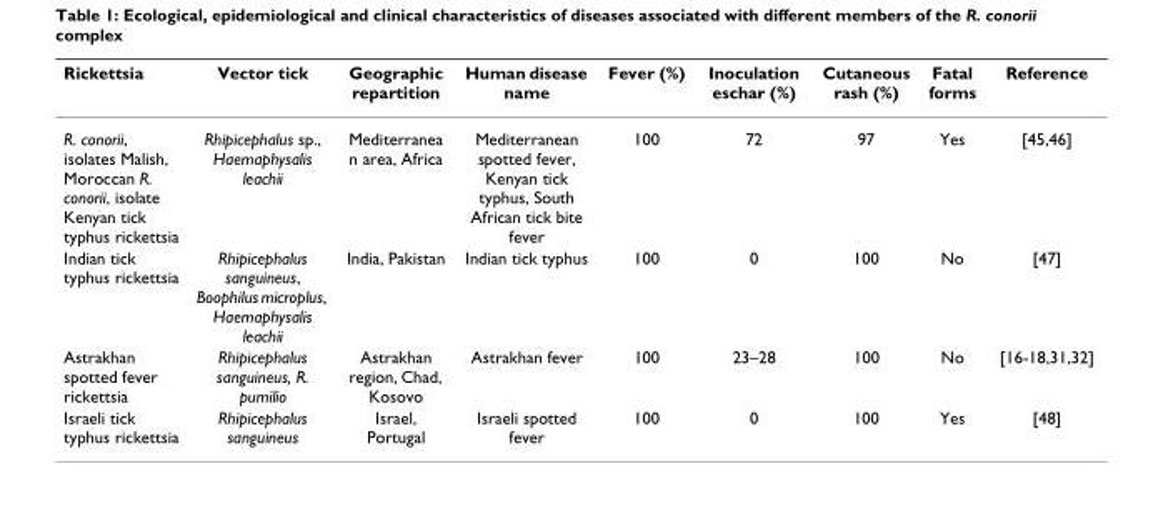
<table><thead><tr><td>Rickettsia</td><td>Vector tick</td><td>Geographic repartition</td><td>Human disease name</td><td>Fever (%)</td><td>Inoculation eschar (%)</td><td>Cutaneous rash (%)</td><td>Fatal forms</td><td>Reference</td></tr></thead><tbody><tr><td>R. conorii, isolates Malish, Moroccan R. conorii, isolate Kenyan tick typhus rickettsia</td><td>Rhipicephalus sp., Haemaphysalis leachii</td><td>Mediterranea n area, Africa</td><td>Mediterranean spotted fever, Kenyan tick typhus, South African tick bite fever</td><td>100</td><td>72</td><td>97</td><td>Yes</td><td>[45,46]</td></tr><tr><td>Indian tick typhus rickettsia</td><td>Rhipicephalus sanguineus, Boophilus microplus, Haemaphysalis leachii</td><td>India, Pakistan</td><td>Indian tick typhus</td><td>100</td><td>0</td><td>100</td><td>No</td><td>[47]</td></tr><tr><td>Astrakhan spotted fever rickettsia</td><td>Rhipicephalus sanguineus, R. pumilio</td><td>Astrakhan region, Chad, Kosovo</td><td>Astrakhan fever</td><td>100</td><td>23–28</td><td>100</td><td>No</td><td>[16-18,31,32]</td></tr><tr><td>Israeli tick typhus rickettsia</td><td>Rhipicephalus sanguineus</td><td>Israel, Portugal</td><td>Israeli spotted fever</td><td>100</td><td>0</td><td>100</td><td>Yes</td><td>[48]</td></tr></tbody></table>